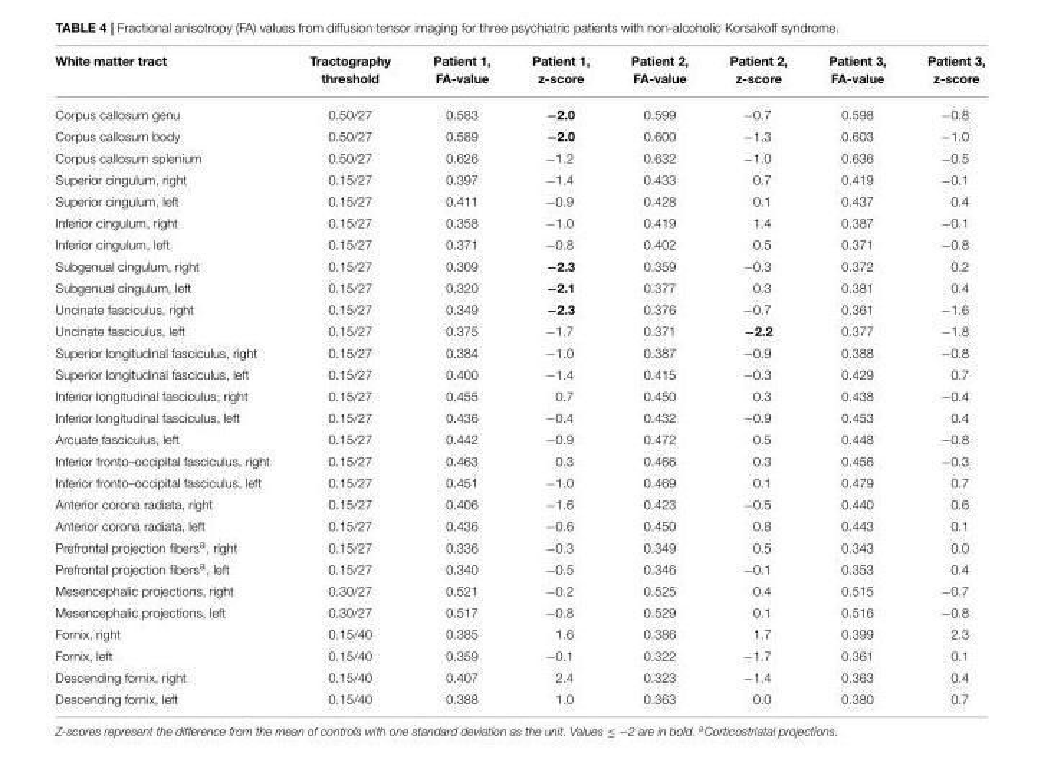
<table><thead><tr><td>White matter tract</td><td>Tractography threshold</td><td>Patient 1, FA-value</td><td>Patient 1, z-score</td><td>Patient 2, FA-value</td><td>Patient 2, z-score</td><td>Patient 3, FA-value</td><td>Patient 3, z-score</td></tr></thead><tbody><tr><td>Corpus callosum genu</td><td>0.50/27</td><td>0.583</td><td>−2.0</td><td>0.599</td><td>−0.7</td><td>0.598</td><td>−0.8</td></tr><tr><td>Corpus callosum body</td><td>0.50/27</td><td>0.589</td><td>−2.0</td><td>0.600</td><td>−1.3</td><td>0.603</td><td>−1.0</td></tr><tr><td>Corpus callosum splenium</td><td>0.50/27</td><td>0.626</td><td>−1.2</td><td>0.632</td><td>−1.0</td><td>0.636</td><td>−0.5</td></tr><tr><td>Superior cingulum, right</td><td>0.15/27</td><td>0.397</td><td>−1.4</td><td>0.433</td><td>0.7</td><td>0.419</td><td>−0.1</td></tr><tr><td>Superior cingulum, left</td><td>0.15/27</td><td>0.411</td><td>−0.9</td><td>0.428</td><td>0.1</td><td>0.437</td><td>0.4</td></tr><tr><td>Inferior cingulum, right</td><td>0.15/27</td><td>0.358</td><td>−1.0</td><td>0.419</td><td>1.4</td><td>0.387</td><td>−0.1</td></tr><tr><td>Inferior cingulum, left</td><td>0.15/27</td><td>0.371</td><td>−0.8</td><td>0.402</td><td>0.5</td><td>0.371</td><td>−0.8</td></tr><tr><td>Subgenual cingulum, right</td><td>0.15/27</td><td>0.309</td><td>−2.3</td><td>0.359</td><td>−0.3</td><td>0.372</td><td>0.2</td></tr><tr><td>Subgenual cingulum, left</td><td>0.15/27</td><td>0.320</td><td>−2.1</td><td>0.377</td><td>0.3</td><td>0.381</td><td>0.4</td></tr><tr><td>Uncinate fasciculus, right</td><td>0.15/27</td><td>0.349</td><td>−2.3</td><td>0.376</td><td>−0.7</td><td>0.361</td><td>−1.6</td></tr><tr><td>Uncinate fasciculus, left</td><td>0.15/27</td><td>0.375</td><td>−1.7</td><td>0.371</td><td>−2.2</td><td>0.377</td><td>−1.8</td></tr><tr><td>Superior longitudinal fasciculus, right</td><td>0.15/27</td><td>0.384</td><td>−1.0</td><td>0.387</td><td>−0.9</td><td>0.388</td><td>−0.8</td></tr><tr><td>Superior longitudinal fasciculus, left</td><td>0.15/27</td><td>0.400</td><td>−1.4</td><td>0.415</td><td>−0.3</td><td>0.429</td><td>0.7</td></tr><tr><td>Inferior longitudinal fasciculus, right</td><td>0.15/27</td><td>0.455</td><td>0.7</td><td>0.450</td><td>0.3</td><td>0.438</td><td>−0.4</td></tr><tr><td>Inferior longitudinal fasciculus, left</td><td>0.15/27</td><td>0.436</td><td>−0.4</td><td>0.432</td><td>−0.9</td><td>0.453</td><td>0.4</td></tr><tr><td>Arcuate fasciculus, left</td><td>0.15/27</td><td>0.442</td><td>−0.9</td><td>0.472</td><td>0.5</td><td>0.448</td><td>−0.8</td></tr><tr><td>Inferior fronto–occipital fasciculus, right</td><td>0.15/27</td><td>0.463</td><td>0.3</td><td>0.466</td><td>0.3</td><td>0.456</td><td>−0.3</td></tr><tr><td>Inferior fronto–occipital fasciculus, left</td><td>0.15/27</td><td>0.451</td><td>−1.0</td><td>0.469</td><td>0.1</td><td>0.479</td><td>0.7</td></tr><tr><td>Anterior corona radiata, right</td><td>0.15/27</td><td>0.406</td><td>−1.6</td><td>0.423</td><td>−0.5</td><td>0.440</td><td>0.6</td></tr><tr><td>Anterior corona radiata, left</td><td>0.15/27</td><td>0.436</td><td>−0.6</td><td>0.450</td><td>0.8</td><td>0.443</td><td>0.1</td></tr><tr><td>Prefrontal projection fibers<sup>a</sup>, right</td><td>0.15/27</td><td>0.336</td><td>−0.3</td><td>0.349</td><td>0.5</td><td>0.343</td><td>0.0</td></tr><tr><td>Prefrontal projection fibers<sup>a</sup>, left</td><td>0.15/27</td><td>0.340</td><td>−0.5</td><td>0.346</td><td>−0.1</td><td>0.353</td><td>0.4</td></tr><tr><td>Mesencephalic projections, right</td><td>0.30/27</td><td>0.521</td><td>−0.2</td><td>0.525</td><td>0.4</td><td>0.515</td><td>−0.7</td></tr><tr><td>Mesencephalic projections, left</td><td>0.30/27</td><td>0.517</td><td>−0.8</td><td>0.529</td><td>0.1</td><td>0.516</td><td>−0.8</td></tr><tr><td>Fornix, right</td><td>0.15/40</td><td>0.385</td><td>1.6</td><td>0.386</td><td>1.7</td><td>0.399</td><td>2.3</td></tr><tr><td>Fornix, left</td><td>0.15/40</td><td>0.359</td><td>−0.1</td><td>0.322</td><td>−1.7</td><td>0.361</td><td>0.1</td></tr><tr><td>Descending fornix, right</td><td>0.15/40</td><td>0.407</td><td>2.4</td><td>0.323</td><td>−1.4</td><td>0.363</td><td>0.4</td></tr><tr><td>Descending fornix, left</td><td>0.15/40</td><td>0.388</td><td>1.0</td><td>0.363</td><td>0.0</td><td>0.380</td><td>0.7</td></tr></tbody></table>